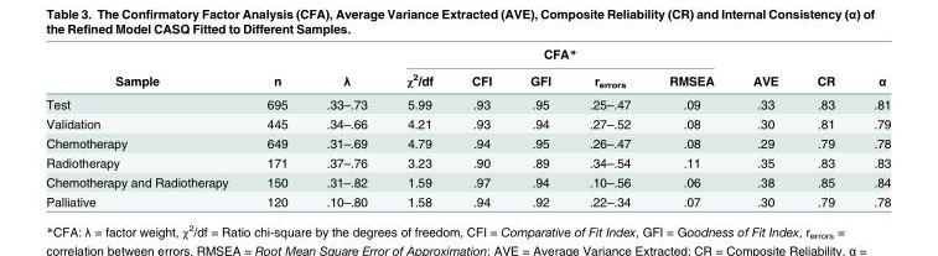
<table><thead><tr><td rowspan="2">Sample</td><td rowspan="2">n</td><td rowspan="2">λ</td><td colspan="5">CFA*</td><td rowspan="2">AVE</td><td rowspan="2">CR</td><td rowspan="2">α</td></tr><tr><td>χ<sup>2</sup>/df</td><td>CFI</td><td>GFI</td><td>r<sub>errors</sub></td><td>RMSEA</td></tr></thead><tbody><tr><td>Test</td><td>695</td><td>.33–.73</td><td>5.99</td><td>.93</td><td>.95</td><td>.25–.47</td><td>.09</td><td>.33</td><td>.83</td><td>.81</td></tr><tr><td>Validation</td><td>445</td><td>.34–.66</td><td>4.21</td><td>.93</td><td>.94</td><td>.27–.52</td><td>.08</td><td>.30</td><td>.81</td><td>.79</td></tr><tr><td>Chemotherapy</td><td>649</td><td>.31–.69</td><td>4.79</td><td>.94</td><td>.95</td><td>.26–.47</td><td>.08</td><td>.29</td><td>.79</td><td>.78</td></tr><tr><td>Radiotherapy</td><td>171</td><td>.37–.76</td><td>3.23</td><td>.90</td><td>.89</td><td>.34–.54</td><td>.11</td><td>.35</td><td>.83</td><td>.83</td></tr><tr><td>Chemotherapy and Radiotherapy</td><td>150</td><td>.31–.82</td><td>1.59</td><td>.97</td><td>.94</td><td>.10–.56</td><td>.06</td><td>.38</td><td>.85</td><td>.84</td></tr><tr><td>Palliative</td><td>120</td><td>.10–.80</td><td>1.58</td><td>.94</td><td>.92</td><td>.22–.34</td><td>.07</td><td>.30</td><td>.79</td><td>.78</td></tr></tbody></table>